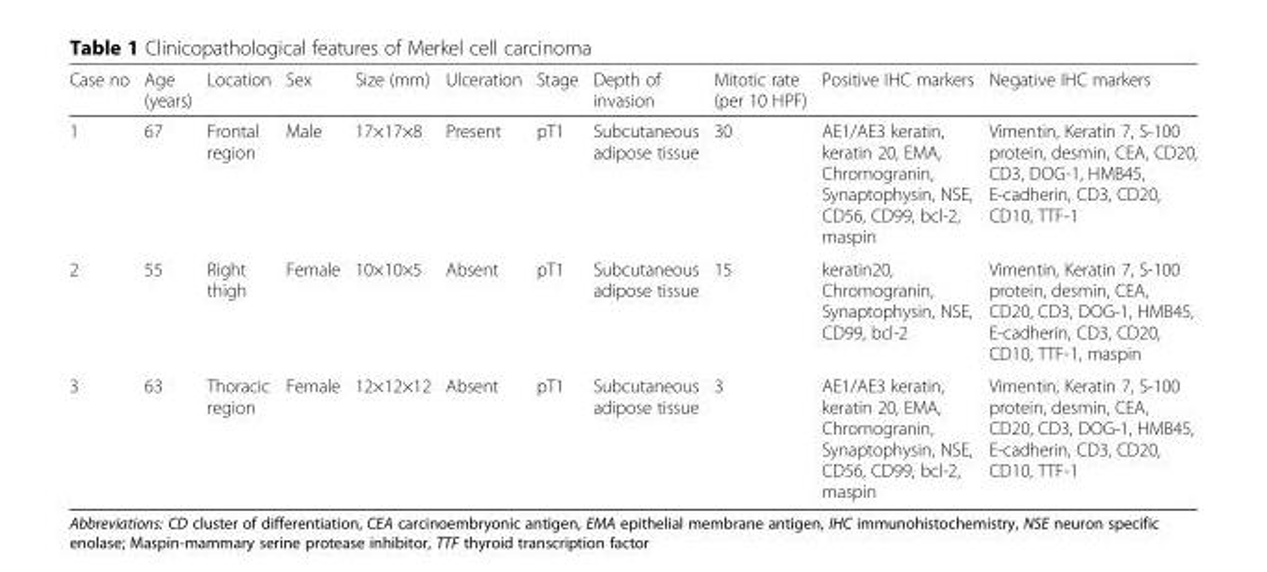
<table><thead><tr><td>Case no</td><td>Age (years)</td><td>Location</td><td>Sex</td><td>Size (mm)</td><td>Ulceration</td><td>Stage</td><td>Depth of invasion</td><td>Mitotic rate (per 10 HPF)</td><td>Positive IHC markers</td><td>Negative IHC markers</td></tr></thead><tbody><tr><td>1</td><td>67</td><td>Frontal region</td><td>Male</td><td>17×17×8</td><td>Present</td><td>pT1</td><td>Subcutaneous adipose tissue</td><td>30</td><td>AE1/AE3 keratin, keratin 20, EMA, Chromogranin, Synaptophysin, NSE, CD56, CD99, bcl-2, maspin</td><td>Vimentin, Keratin 7, S-100 protein, desmin, CEA, CD20, CD3, DOG-1, HMB45, E-cadherin, CD3, CD20, CD10, TTF-1</td></tr><tr><td>2</td><td>55</td><td>Right thigh</td><td>Female</td><td>10×10×5</td><td>Absent</td><td>pT1</td><td>Subcutaneous adipose tissue</td><td>15</td><td>keratin20, Chromogranin, Synaptophysin, NSE, CD99, bcl-2</td><td>Vimentin, Keratin 7, S-100 protein, desmin, CEA, CD20, CD3, DOG-1, HMB45, E-cadherin, CD3, CD20, CD10, TTF-1, maspin</td></tr><tr><td>3</td><td>63</td><td>Thoracic region</td><td>Female</td><td>12×12×12</td><td>Absent</td><td>pT1</td><td>Subcutaneous adipose tissue</td><td>3</td><td>AE1/AE3 keratin, keratin 20, EMA, Chromogranin, Synaptophysin, NSE, CD56, CD99, bcl-2, maspin</td><td>Vimentin, Keratin 7, S-100 protein, desmin, CEA, CD20, CD3, DOG-1, HMB45, E-cadherin, CD3, CD20, CD10, TTF-1</td></tr></tbody></table>